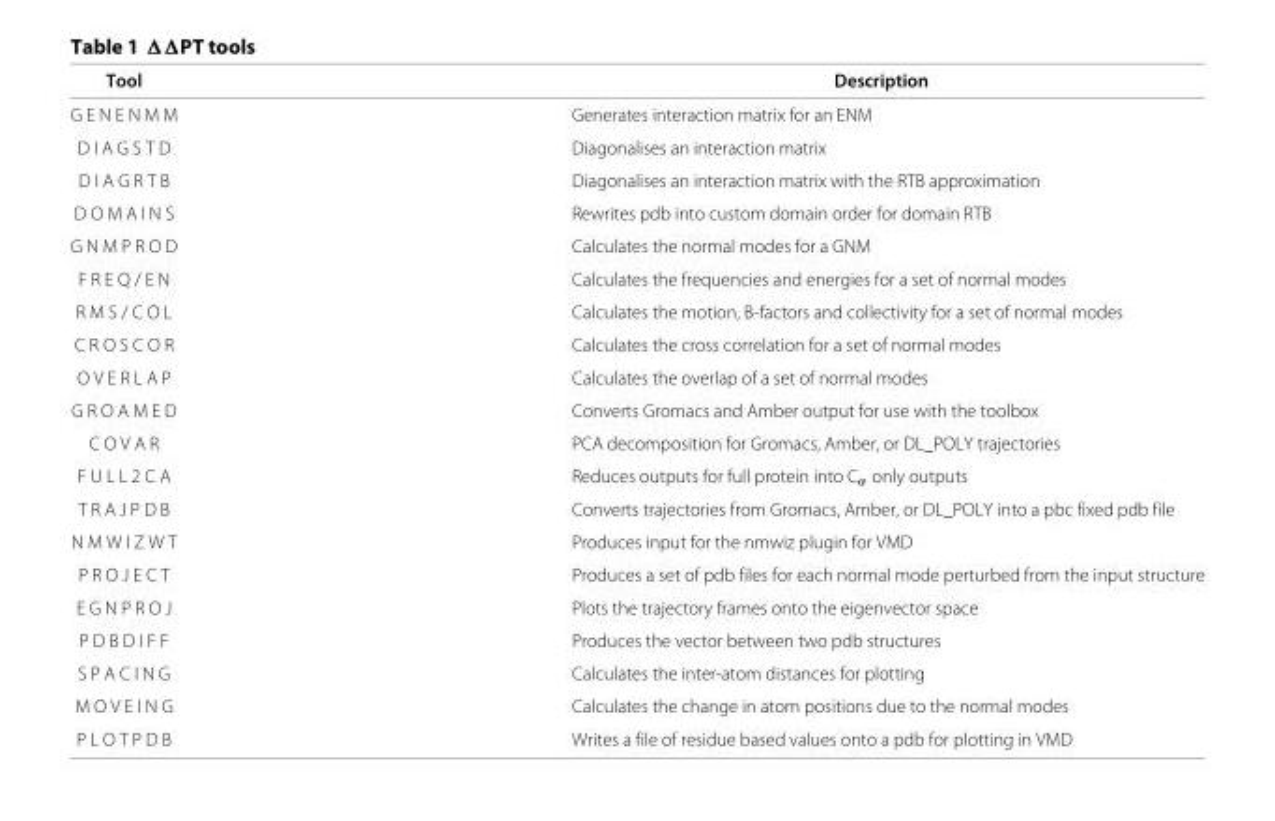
<table><thead><tr><td>Tool</td><td>Description</td></tr></thead><tbody><tr><td>G E N E N M M</td><td>Generates interaction matrix for an ENM</td></tr><tr><td>D I A G S T D</td><td>Diagonalises an interaction matrix</td></tr><tr><td>D I A G R T B</td><td>Diagonalises an interaction matrix with the RTB approximation</td></tr><tr><td>D O M A I N S</td><td>Rewrites pdb into custom domain order for domain RTB</td></tr><tr><td>G N M P R O D</td><td>Calculates the normal modes for a GNM</td></tr><tr><td>F R E Q / E N</td><td>Calculates the frequencies and energies for a set of normal modes</td></tr><tr><td>R M S / C O L</td><td>Calculates the motion, B-factors and collectivity for a set of normal modes</td></tr><tr><td>C R O S C O R</td><td>Calculates the cross correlation for a set of normal modes</td></tr><tr><td>O V E R L A P</td><td>Calculates the overlap of a set of normal modes</td></tr><tr><td>G R O A M E D</td><td>Converts Gromacs and Amber output for use with the toolbox</td></tr><tr><td>C O V A R</td><td>PCA decomposition for Gromacs, Amber, or DL_POLY trajectories</td></tr><tr><td>F U L L 2 C A</td><td>Reduces outputs for full protein into C<sub>α</sub> only outputs</td></tr><tr><td>T R A J P D B</td><td>Converts trajectories from Gromacs, Amber, or DL_POLY into a pbc fixed pdb file</td></tr><tr><td>N M W I Z W T</td><td>Produces input for the nmwiz plugin for VMD</td></tr><tr><td>P R O J E C T</td><td>Produces a set of pdb files for each normal mode perturbed from the input structure</td></tr><tr><td>E G N P R O J</td><td>Plots the trajectory frames onto the eigenvector space</td></tr><tr><td>P D B D I F F</td><td>Produces the vector between two pdb structures</td></tr><tr><td>S P A C I N G</td><td>Calculates the inter-atom distances for plotting</td></tr><tr><td>M O V E I N G</td><td>Calculates the change in atom positions due to the normal modes</td></tr><tr><td>P L O T P D B</td><td>Writes a file of residue based values onto a pdb for plotting in VMD</td></tr></tbody></table>